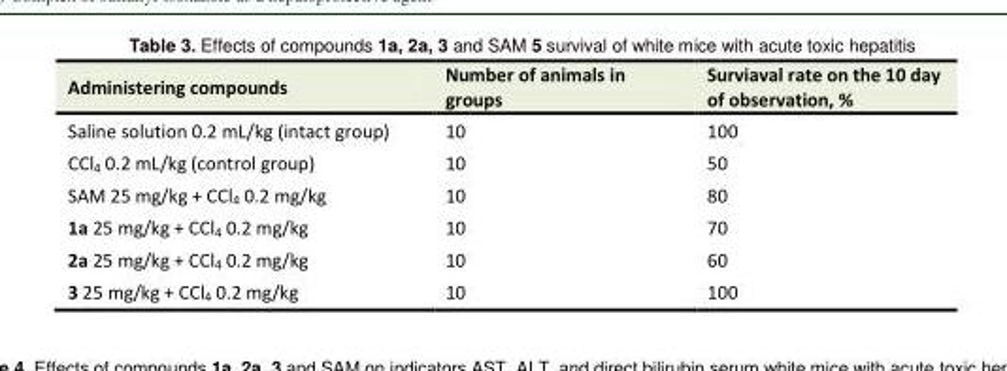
<table><tbody><tr><td>Administering compounds</td><td>Number of animals in groups</td><td>Surviaval rate on the 10 day of observation, %</td></tr><tr><td>Saline solution 0.2 mL/kg (intact group)</td><td>10</td><td>100</td></tr><tr><td>CCl<sub>4</sub> 0.2 mL/kg (control group)</td><td>10</td><td>50</td></tr><tr><td>SAM 25 mg/kg + CCl<sub>4</sub> 0.2 mg/kg</td><td>10</td><td>80</td></tr><tr><td>1a 25 mg/kg + CCl<sub>4</sub> 0.2 mg/kg</td><td>10</td><td>70</td></tr><tr><td>2a 25 mg/kg + CCl<sub>4</sub> 0.2 mg/kg</td><td>10</td><td>60</td></tr><tr><td>3 25 mg/kg + CCl<sub>4</sub> 0.2 mg/kg</td><td>10</td><td>100</td></tr></tbody></table>